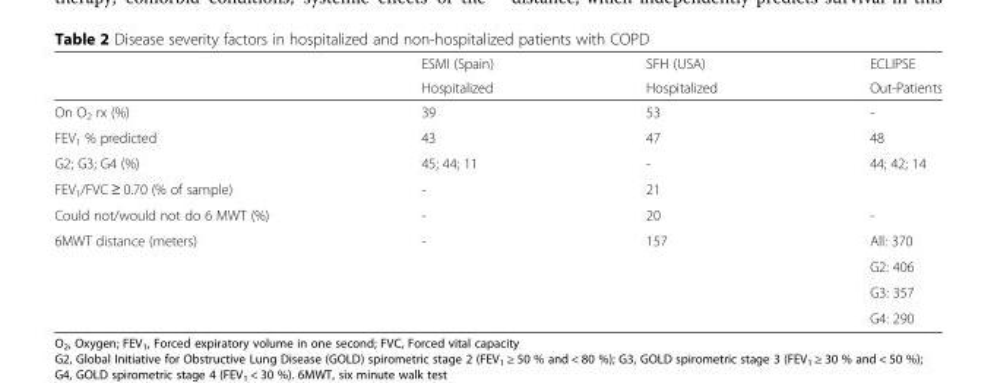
<table><thead><tr><td rowspan="2"></td><td rowspan="2">ESMI (Spain) Hospitalized</td><td rowspan="2">SFH (USA) Hospitalized</td><td rowspan="2">ECLIPSE Out-Patients</td></tr><tr></tr></thead><tbody><tr><td>On O<sub>2</sub> rx (%)</td><td>39</td><td>53</td><td>-</td></tr><tr><td>FEV<sub>1</sub> % predicted</td><td>43</td><td>47</td><td>48</td></tr><tr><td>G2; G3; G4 (%)</td><td>45; 44; 11</td><td>-</td><td>44; 42; 14</td></tr><tr><td>FEV<sub>1</sub>/FVC ≥ 0.70 (% of sample)</td><td>-</td><td>21</td><td></td></tr><tr><td>Could not/would not do 6 MWT (%)</td><td>-</td><td>20</td><td>-</td></tr><tr><td rowspan="4">6MWT distance (meters)</td><td rowspan="4">-</td><td rowspan="4">157</td><td>All: 370</td></tr><tr><td>G2: 406</td></tr><tr><td>G3: 357</td></tr><tr><td>G4: 290</td></tr></tbody></table>